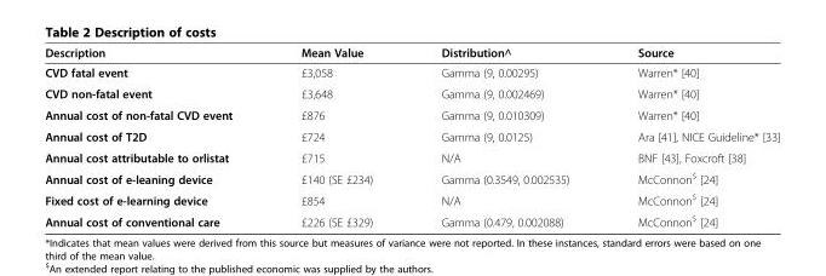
<table><thead><tr><td>Description</td><td>Mean Value</td><td>Distribution^</td><td>Source</td></tr></thead><tbody><tr><td>CVD fatal event</td><td>£3,058</td><td>Gamma (9, 0.00295)</td><td>Warren* [40]</td></tr><tr><td>CVD non-fatal event</td><td>£3,648</td><td>Gamma (9, 0.002469)</td><td>Warren* [40]</td></tr><tr><td>Annual cost of non-fatal CVD event</td><td>£876</td><td>Gamma (9, 0.010309)</td><td>Warren* [40]</td></tr><tr><td>Annual cost of T2D</td><td>£724</td><td>Gamma (9, 0.0125)</td><td>Ara [41], NICE Guideline* [33]</td></tr><tr><td>Annual cost attributable to orlistat</td><td>£715</td><td>N/A</td><td>BNF [43], Foxcroft [38]</td></tr><tr><td>Annual cost of e-leaning device</td><td>£140 (SE £234)</td><td>Gamma (0.3549, 0.002535)</td><td>McConnon<sup>$</sup> [24]</td></tr><tr><td>Fixed cost of e-learning device</td><td>£854</td><td>N/A</td><td>McConnon<sup>$</sup> [24]</td></tr><tr><td>Annual cost of conventional care</td><td>£226 (SE £329)</td><td>Gamma (0.479, 0.002088)</td><td>McConnon<sup>$</sup> [24]</td></tr></tbody></table>